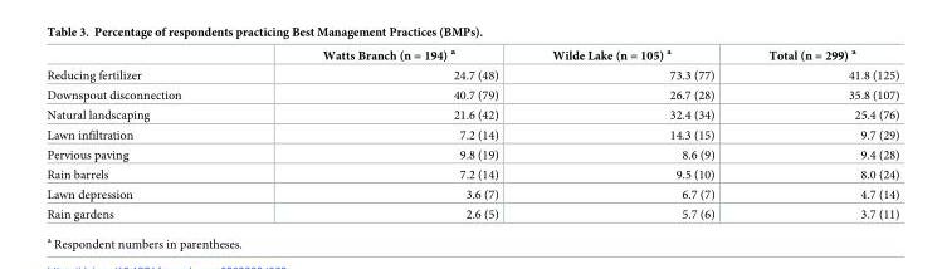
<table><thead><tr><td></td><td>Watts Branch (n = 194) <sup>a</sup></td><td>Wilde Lake (n = 105) <sup>a</sup></td><td>Total (n = 299) <sup>a</sup></td></tr></thead><tbody><tr><td>Reducing fertilizer</td><td>24.7 (48)</td><td>73.3 (77)</td><td>41.8 (125)</td></tr><tr><td>Downspout disconnection</td><td>40.7 (79)</td><td>26.7 (28)</td><td>35.8 (107)</td></tr><tr><td>Natural landscaping</td><td>21.6 (42)</td><td>32.4 (34)</td><td>25.4 (76)</td></tr><tr><td>Lawn infiltration</td><td>7.2 (14)</td><td>14.3 (15)</td><td>9.7 (29)</td></tr><tr><td>Pervious paving</td><td>9.8 (19)</td><td>8.6 (9)</td><td>9.4 (28)</td></tr><tr><td>Rain barrels</td><td>7.2 (14)</td><td>9.5 (10)</td><td>8.0 (24)</td></tr><tr><td>Lawn depression</td><td>3.6 (7)</td><td>6.7 (7)</td><td>4.7 (14)</td></tr><tr><td>Rain gardens</td><td>2.6 (5)</td><td>5.7 (6)</td><td>3.7 (11)</td></tr></tbody></table>